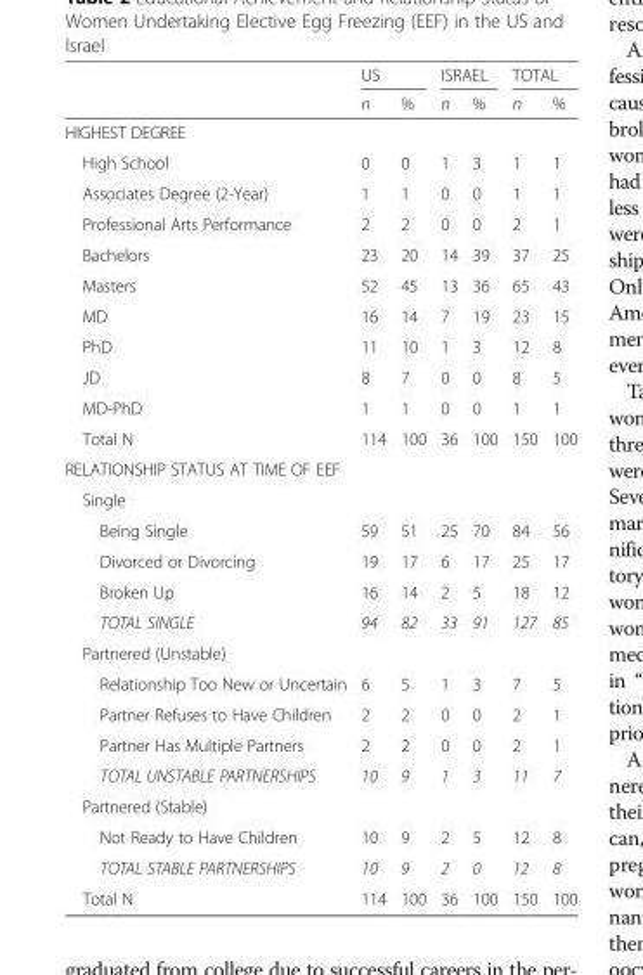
<table><thead><tr><td rowspan="2"></td><td colspan="2">US</td><td colspan="2">ISRAEL</td><td colspan="2">TOTAL</td></tr><tr><td>n</td><td>%</td><td>n</td><td>%</td><td>n</td><td>%</td></tr></thead><tbody><tr><td colspan="7">HIGHEST DEGREE</td></tr><tr><td>High School</td><td>0</td><td>0</td><td>1</td><td>3</td><td>1</td><td>1</td></tr><tr><td>Associates Degree (2-Year)</td><td>1</td><td>1</td><td>0</td><td>0</td><td>1</td><td>1</td></tr><tr><td>Professional Arts Performance</td><td>2</td><td>2</td><td>0</td><td>0</td><td>2</td><td>1</td></tr><tr><td>Bachelors</td><td>23</td><td>20</td><td>14</td><td>39</td><td>37</td><td>25</td></tr><tr><td>Masters</td><td>52</td><td>45</td><td>13</td><td>36</td><td>65</td><td>43</td></tr><tr><td>MD</td><td>16</td><td>14</td><td>7</td><td>19</td><td>23</td><td>15</td></tr><tr><td>PhD</td><td>11</td><td>10</td><td>1</td><td>3</td><td>12</td><td>8</td></tr><tr><td>JD</td><td>8</td><td>7</td><td>0</td><td>0</td><td>8</td><td>5</td></tr><tr><td>MD-PhD</td><td>1</td><td>1</td><td>0</td><td>0</td><td>1</td><td>1</td></tr><tr><td>Total N</td><td>114</td><td>100</td><td>36</td><td>100</td><td>150</td><td>100</td></tr><tr><td colspan="7">RELATIONSHIP STATUS AT TIME OF EEF</td></tr><tr><td colspan="7">Single</td></tr><tr><td>Being Single</td><td>59</td><td>51</td><td>25</td><td>70</td><td>84</td><td>56</td></tr><tr><td>Divorced or Divorcing</td><td>19</td><td>17</td><td>6</td><td>17</td><td>25</td><td>17</td></tr><tr><td>Broken Up</td><td>16</td><td>14</td><td>2</td><td>5</td><td>18</td><td>12</td></tr><tr><td>TOTAL SINGLE</td><td>94</td><td>82</td><td>33</td><td>91</td><td>127</td><td>85</td></tr><tr><td colspan="7">Partnered (Unstable)</td></tr><tr><td>Relationship Too New or Uncertain</td><td>6</td><td>5</td><td>1</td><td>3</td><td>7</td><td>5</td></tr><tr><td>Partner Refuses to Have Children</td><td>2</td><td>2</td><td>0</td><td>0</td><td>2</td><td>1</td></tr><tr><td>Partner Has Multiple Partners</td><td>2</td><td>2</td><td>0</td><td>0</td><td>2</td><td>1</td></tr><tr><td>TOTAL UNSTABLE PARTNERSHIPS</td><td>10</td><td>9</td><td>1</td><td>3</td><td>11</td><td>7</td></tr><tr><td colspan="7">Partnered (Stable)</td></tr><tr><td>Not Ready to Have Children</td><td>10</td><td>9</td><td>2</td><td>5</td><td>12</td><td>8</td></tr><tr><td>TOTAL STABLE PARTNERSHIPS</td><td>10</td><td>9</td><td>2</td><td>0</td><td>12</td><td>8</td></tr><tr><td>Total N</td><td>114</td><td>100</td><td>36</td><td>100</td><td>150</td><td>100</td></tr></tbody></table>